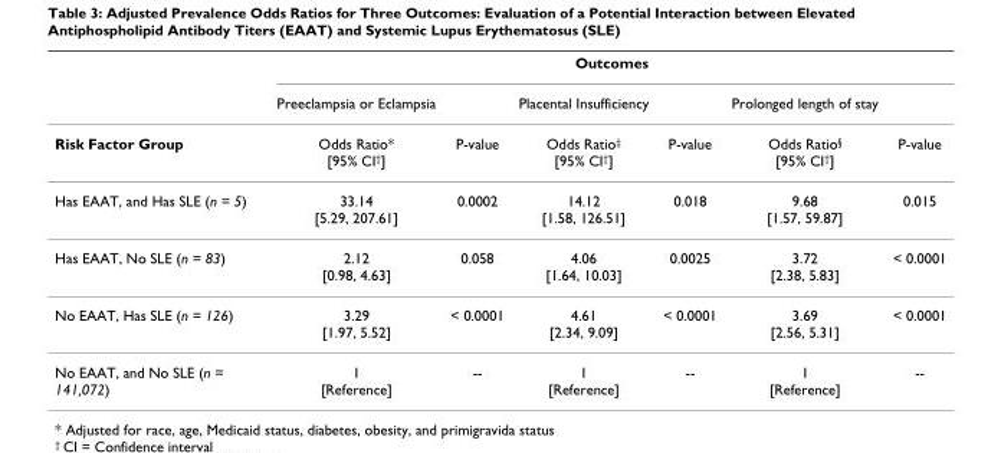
<table><thead><tr><td rowspan="2"></td><td colspan="6">Outcomes</td></tr><tr><td>Preeclampsia or Eclampsia</td><td></td><td>Placental Insufficiency</td><td></td><td>Prolonged length of stay</td><td></td></tr></thead><tbody><tr><td>Risk Factor Group</td><td>Odds Ratio* [95% CI<sup>†</sup>]</td><td>P-value</td><td>Odds Ratio<sup>‡</sup> [95% CI<sup>†</sup>]</td><td>P-value</td><td>Odds Ratio<sup>§</sup> [95% CI<sup>†</sup>]</td><td>P-value</td></tr><tr><td>Has EAAT, and Has SLE (n = 5)</td><td>33.14 [5.29, 207.61]</td><td>0.0002</td><td>14.12 [1.58, 126.51]</td><td>0.018</td><td>9.68 [1.57, 59.87]</td><td>0.015</td></tr><tr><td>Has EAAT, No SLE (n = 83)</td><td>2.12 [0.98, 4.63]</td><td>0.058</td><td>4.06 [1.64, 10.03]</td><td>0.0025</td><td>3.72 [2.38, 5.83]</td><td>&lt; 0.0001</td></tr><tr><td>No EAAT, Has SLE (n = 126)</td><td>3.29 [1.97, 5.52]</td><td>&lt; 0.0001</td><td>4.61 [2.34, 9.09]</td><td>&lt; 0.0001</td><td>3.69 [2.56, 5.31]</td><td>&lt; 0.0001</td></tr><tr><td>No EAAT, and No SLE (n = 141,072)</td><td>1 [Reference]</td><td>--</td><td>1 [Reference]</td><td>--</td><td>1 [Reference]</td><td>--</td></tr></tbody></table>